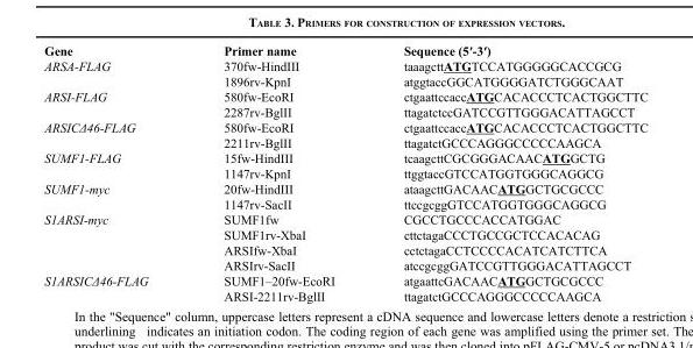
<table><thead><tr><td>Gene</td><td>Primer name</td><td>Sequence (5′-3′)</td></tr></thead><tbody><tr><td rowspan="2">ARSA-FLAG</td><td>370fw-HindIII</td><td>taaagcttATGTCCATGGGGGCACCGCG</td></tr><tr><td>1896rv-KpnI</td><td>atggtaccGGCATGGGGATCTGGGCAAT</td></tr><tr><td rowspan="2">ARSI-FLAG</td><td>580fw-EcoRI</td><td>ctgaattccaccATGCACACCCTCACTGGCTTC</td></tr><tr><td>2287rv-BglII</td><td>ttagatctccGATCCGTTGGGACATTAGCCT</td></tr><tr><td rowspan="2">ARSICΔ46-FLAG</td><td>580fw-EcoRI</td><td>ctgaattccaccATGCACACCCTCACTGGCTTC</td></tr><tr><td>2211rv-BglII</td><td>ttagatctGCCCAGGGCCCCCAAGCA</td></tr><tr><td rowspan="2">SUMF1-FLAG</td><td>15fw-HindIII</td><td>tcaagcttCGCGGGACAACATGGCTG</td></tr><tr><td>1147rv-KpnI</td><td>ttggtaccGTCCATGGTGGGCAGGCG</td></tr><tr><td rowspan="2">SUMF1-myc</td><td>20fw-HindIII</td><td>ataagcttGACAACATGGCTGCGCCC</td></tr><tr><td>1147rv-SacII</td><td>ttccgcggGTCCATGGTGGGCAGGCG</td></tr><tr><td rowspan="4">S1ARSI-myc</td><td>SUMF1fw</td><td>CGCCTGCCCACCATGGAC</td></tr><tr><td>SUMF1rv-XbaI</td><td>cttctagaCCCTGCCGCTCCACACAG</td></tr><tr><td>ARSIfw-XbaI</td><td>cctctagaCCTCCCCACATCATCTTCA</td></tr><tr><td>ARSIrv-SacII</td><td>atccgcggGATCCGTTGGGACATTAGCCT</td></tr><tr><td rowspan="2">S1ARSICΔ46-FLAG</td><td>SUMF1–20fw-EcoRI</td><td>atgaattcGACAACATGGCTGCGCCC</td></tr><tr><td>ARSI-2211rv-BglII</td><td>ttagatctGCCCAGGGCCCCCAAGCA</td></tr></tbody></table>